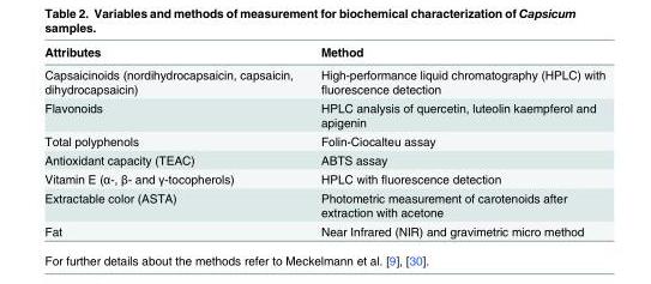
<table><thead><tr><td>Attributes</td><td>Method</td></tr></thead><tbody><tr><td>Capsaicinoids (nordihydrocapsaicin, capsaicin, dihydrocapsaicin)</td><td>High-performance liquid chromatography (HPLC) with fluorescence detection</td></tr><tr><td>Flavonoids</td><td>HPLC analysis of quercetin, luteolin kaempferol and apigenin</td></tr><tr><td>Total polyphenols</td><td>Folin-Ciocalteu assay</td></tr><tr><td>Antioxidant capacity (TEAC)</td><td>ABTS assay</td></tr><tr><td>Vitamin E (α-, β- and γ-tocopherols)</td><td>HPLC with fluorescence detection</td></tr><tr><td>Extractable color (ASTA)</td><td>Photometric measurement of carotenoids after extraction with acetone</td></tr><tr><td>Fat</td><td>Near Infrared (NIR) and gravimetric micro method</td></tr></tbody></table>